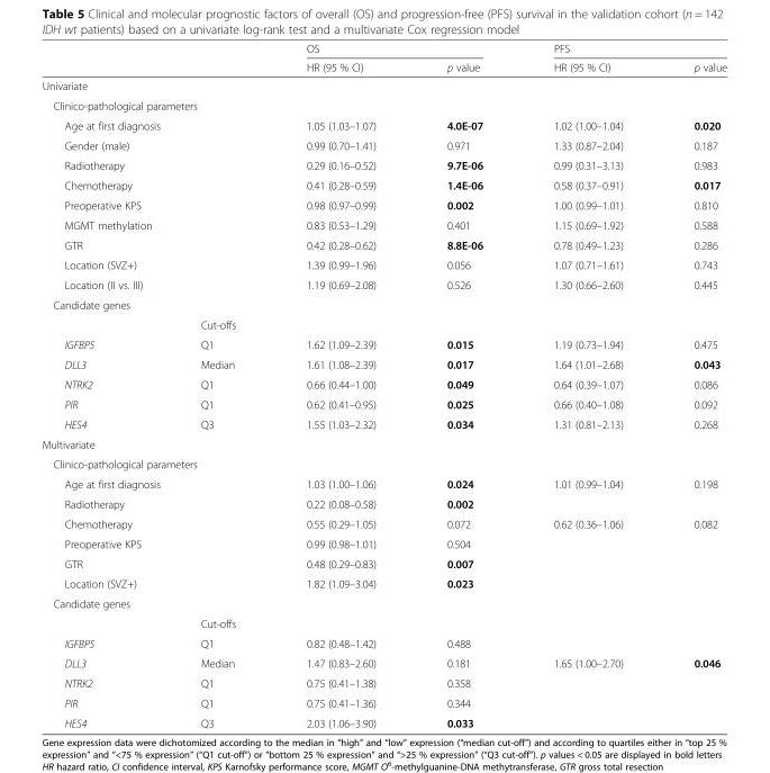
<table><thead><tr><td rowspan="2"></td><td rowspan="2"></td><td colspan="2">OS</td><td colspan="2">PFS</td></tr><tr><td>HR (95 % CI)</td><td>p value</td><td>HR (95 % CI)</td><td>p value</td></tr></thead><tbody><tr><td colspan="6">Univariate</td></tr><tr><td colspan="6">Clinico-pathological parameters</td></tr><tr><td colspan="2">Age at first diagnosis</td><td>1.05 (1.03–1.07)</td><td>4.0E-07</td><td>1.02 (1.00–1.04)</td><td>0.020</td></tr><tr><td colspan="2">Gender (male)</td><td>0.99 (0.70–1.41)</td><td>0.971</td><td>1.33 (0.87–2.04)</td><td>0.187</td></tr><tr><td colspan="2">Radiotherapy</td><td>0.29 (0.16–0.52)</td><td>9.7E-06</td><td>0.99 (0.31–3.13)</td><td>0.983</td></tr><tr><td colspan="2">Chemotherapy</td><td>0.41 (0.28–0.59)</td><td>1.4E-06</td><td>0.58 (0.37–0.91)</td><td>0.017</td></tr><tr><td colspan="2">Preoperative KPS</td><td>0.98 (0.97–0.99)</td><td>0.002</td><td>1.00 (0.99–1.01)</td><td>0.810</td></tr><tr><td colspan="2">MGMT methylation</td><td>0.83 (0.53–1.29)</td><td>0.401</td><td>1.15 (0.69–1.92)</td><td>0.588</td></tr><tr><td colspan="2">GTR</td><td>0.42 (0.28–0.62)</td><td>8.8E-06</td><td>0.78 (0.49–1.23)</td><td>0.286</td></tr><tr><td colspan="2">Location (SVZ+)</td><td>1.39 (0.99–1.96)</td><td>0.056</td><td>1.07 (0.71–1.61)</td><td>0.743</td></tr><tr><td colspan="2">Location (II vs. III)</td><td>1.19 (0.69–2.08)</td><td>0.526</td><td>1.30 (0.66–2.60)</td><td>0.445</td></tr><tr><td colspan="6">Candidate genes</td></tr><tr><td></td><td>Cut-offs</td><td></td><td></td><td></td><td></td></tr><tr><td>IGFBP5</td><td>Q1</td><td>1.62 (1.09–2.39)</td><td>0.015</td><td>1.19 (0.73–1.94)</td><td>0.475</td></tr><tr><td>DLL3</td><td>Median</td><td>1.61 (1.08–2.39)</td><td>0.017</td><td>1.64 (1.01–2.68)</td><td>0.043</td></tr><tr><td>NTRK2</td><td>Q1</td><td>0.66 (0.44–1.00)</td><td>0.049</td><td>0.64 (0.39–1.07)</td><td>0.086</td></tr><tr><td>PIR</td><td>Q1</td><td>0.62 (0.41–0.95)</td><td>0.025</td><td>0.66 (0.40–1.08)</td><td>0.092</td></tr><tr><td>HES4</td><td>Q3</td><td>1.55 (1.03–2.32)</td><td>0.034</td><td>1.31 (0.81–2.13)</td><td>0.268</td></tr><tr><td colspan="6">Multivariate</td></tr><tr><td colspan="6">Clinico-pathological parameters</td></tr><tr><td colspan="2">Age at first diagnosis</td><td>1.03 (1.00–1.06)</td><td>0.024</td><td>1.01 (0.99–1.04)</td><td>0.198</td></tr><tr><td colspan="2">Radiotherapy</td><td>0.22 (0.08–0.58)</td><td>0.002</td><td></td><td></td></tr><tr><td colspan="2">Chemotherapy</td><td>0.55 (0.29–1.05)</td><td>0.072</td><td>0.62 (0.36–1.06)</td><td>0.082</td></tr><tr><td colspan="2">Preoperative KPS</td><td>0.99 (0.98–1.01)</td><td>0.504</td><td></td><td></td></tr><tr><td colspan="2">GTR</td><td>0.48 (0.29–0.83)</td><td>0.007</td><td></td><td></td></tr><tr><td colspan="2">Location (SVZ+)</td><td>1.82 (1.09–3.04)</td><td>0.023</td><td></td><td></td></tr><tr><td colspan="6">Candidate genes</td></tr><tr><td></td><td>Cut-offs</td><td></td><td></td><td></td><td></td></tr><tr><td>IGFBP5</td><td>Q1</td><td>0.82 (0.48–1.42)</td><td>0.488</td><td></td><td></td></tr><tr><td>DLL3</td><td>Median</td><td>1.47 (0.83–2.60)</td><td>0.181</td><td>1.65 (1.00–2.70)</td><td>0.046</td></tr><tr><td>NTRK2</td><td>Q1</td><td>0.75 (0.41–1.38)</td><td>0.358</td><td></td><td></td></tr><tr><td>PIR</td><td>Q1</td><td>0.75 (0.41–1.36)</td><td>0.344</td><td></td><td></td></tr><tr><td>HES4</td><td>Q3</td><td>2.03 (1.06–3.90)</td><td>0.033</td><td></td><td></td></tr></tbody></table>